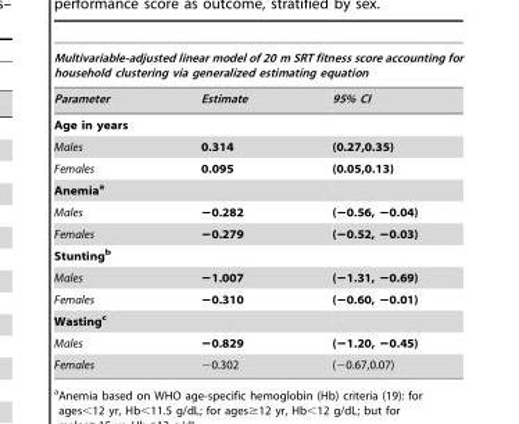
<table><thead><tr><td colspan="3">Multivariable-adjusted linear model of 20 m SRT fitness score accounting for household clustering via generalized estimating equation</td></tr><tr><td>Parameter</td><td>Estimate</td><td>95% CI</td></tr></thead><tbody><tr><td colspan="3">Age in years</td></tr><tr><td>Males</td><td>0.314</td><td>(0.27,0.35)</td></tr><tr><td>Females</td><td>0.095</td><td>(0.05,0.13)</td></tr><tr><td colspan="3">Anemiaa</td></tr><tr><td>Males</td><td>−0.282</td><td>(−0.56, −0.04)</td></tr><tr><td>Females</td><td>−0.279</td><td>(−0.52, −0.03)</td></tr><tr><td colspan="3">Stuntingb</td></tr><tr><td>Males</td><td>−1.007</td><td>(−1.31, −0.69)</td></tr><tr><td>Females</td><td>−0.310</td><td>(−0.60, −0.01)</td></tr><tr><td colspan="3">Wastingc</td></tr><tr><td>Males</td><td>−0.829</td><td>(−1.20, −0.45)</td></tr><tr><td>Females</td><td>−0.302</td><td>(−0.67,0.07)</td></tr></tbody></table>